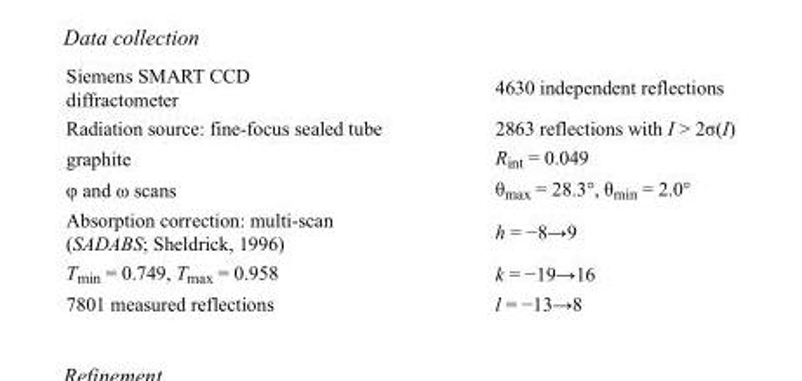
<table><tbody><tr><td>Siemens SMART CCD diffractometer</td><td>4630 independent reflections</td></tr><tr><td>Radiation source: fine-focus sealed tube</td><td>2863 reflections with I &gt; 2σ(I)</td></tr><tr><td>graphite</td><td>R<sub>int</sub> = 0.049</td></tr><tr><td>φ and ω scans</td><td>θ<sub>max</sub> = 28.3°, θ<sub>min</sub> = 2.0°</td></tr><tr><td>Absorption correction: multi-scan (SADABS; Sheldrick, 1996)</td><td>h = −8→9</td></tr><tr><td>T<sub>min</sub> = 0.749, T<sub>max</sub> = 0.958</td><td>k = −19→16</td></tr><tr><td>7801 measured reflections</td><td>l = −13→8</td></tr></tbody></table>